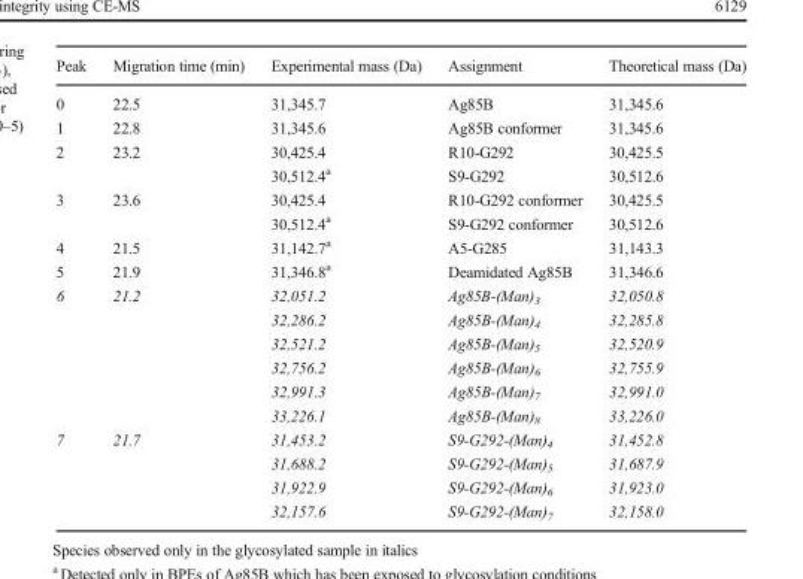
<table><thead><tr><td>Peak</td><td>Migration time (min)</td><td>Experimental mass (Da)</td><td>Assignment</td><td>Theoretical mass (Da)</td></tr></thead><tbody><tr><td>0</td><td>22.5</td><td>31,345.7</td><td>Ag85B</td><td>31,345.6</td></tr><tr><td>1</td><td>22.8</td><td>31,345.6</td><td>Ag85B conformer</td><td>31,345.6</td></tr><tr><td rowspan="2">2</td><td rowspan="2">23.2</td><td>30,425.4</td><td>R10-G292</td><td>30,425.5</td></tr><tr><td>30,512.4<sup>a</sup></td><td>S9-G292</td><td>30,512.6</td></tr><tr><td rowspan="2">3</td><td rowspan="2">23.6</td><td>30,425.4</td><td>R10-G292 conformer</td><td>30,425.5</td></tr><tr><td>30,512.4<sup>a</sup></td><td>S9-G292 conformer</td><td>30,512.6</td></tr><tr><td>4</td><td>21.5</td><td>31,142.7<sup>a</sup></td><td>A5-G285</td><td>31,143.3</td></tr><tr><td>5</td><td>21.9</td><td>31,346.8<sup>a</sup></td><td>Deamidated Ag85B</td><td>31,346.6</td></tr><tr><td rowspan="6">6</td><td rowspan="6">21.2</td><td>32,051.2</td><td>Ag85B-(Man)<sub>3</sub></td><td>32,050.8</td></tr><tr><td>32,286.2</td><td>Ag85B-(Man)<sub>4</sub></td><td>32,285.8</td></tr><tr><td>32,521.2</td><td>Ag85B-(Man)<sub>5</sub></td><td>32,520.9</td></tr><tr><td>32,756.2</td><td>Ag85B-(Man)<sub>6</sub></td><td>32,755.9</td></tr><tr><td>32,991.3</td><td>Ag85B-(Man)<sub>7</sub></td><td>32,991.0</td></tr><tr><td>33,226.1</td><td>Ag85B-(Man)<sub>8</sub></td><td>33,226.0</td></tr><tr><td rowspan="4">7</td><td rowspan="4">21.7</td><td>31,453.2</td><td>S9-G292-(Man)<sub>4</sub></td><td>31,452.8</td></tr><tr><td>31,688.2</td><td>S9-G292-(Man)<sub>5</sub></td><td>31,687.9</td></tr><tr><td>31,922.9</td><td>S9-G292-(Man)<sub>6</sub></td><td>31,923.0</td></tr><tr><td>32,157.6</td><td>S9-G292-(Man)<sub>7</sub></td><td>32,158.0</td></tr></tbody></table>